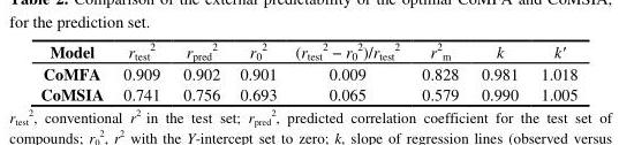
<table><thead><tr><td>Model</td><td>r<sub>test</sub> <sup>2</sup></td><td>r<sub>pred</sub> <sup>2</sup></td><td>r<sub>0</sub> <sup>2</sup></td><td>(r<sub>test</sub> <sup>2</sup> − r<sub>0</sub> <sup>2</sup>)/r<sub>test</sub> <sup>2</sup></td><td>r<sup>2</sup> <sub>m</sub></td><td>k</td><td>k′</td></tr></thead><tbody><tr><td>CoMFA</td><td>0.909</td><td>0.902</td><td>0.901</td><td>0.009</td><td>0.828</td><td>0.981</td><td>1.018</td></tr><tr><td>CoMSIA</td><td>0.741</td><td>0.756</td><td>0.693</td><td>0.065</td><td>0.579</td><td>0.990</td><td>1.005</td></tr></tbody></table>